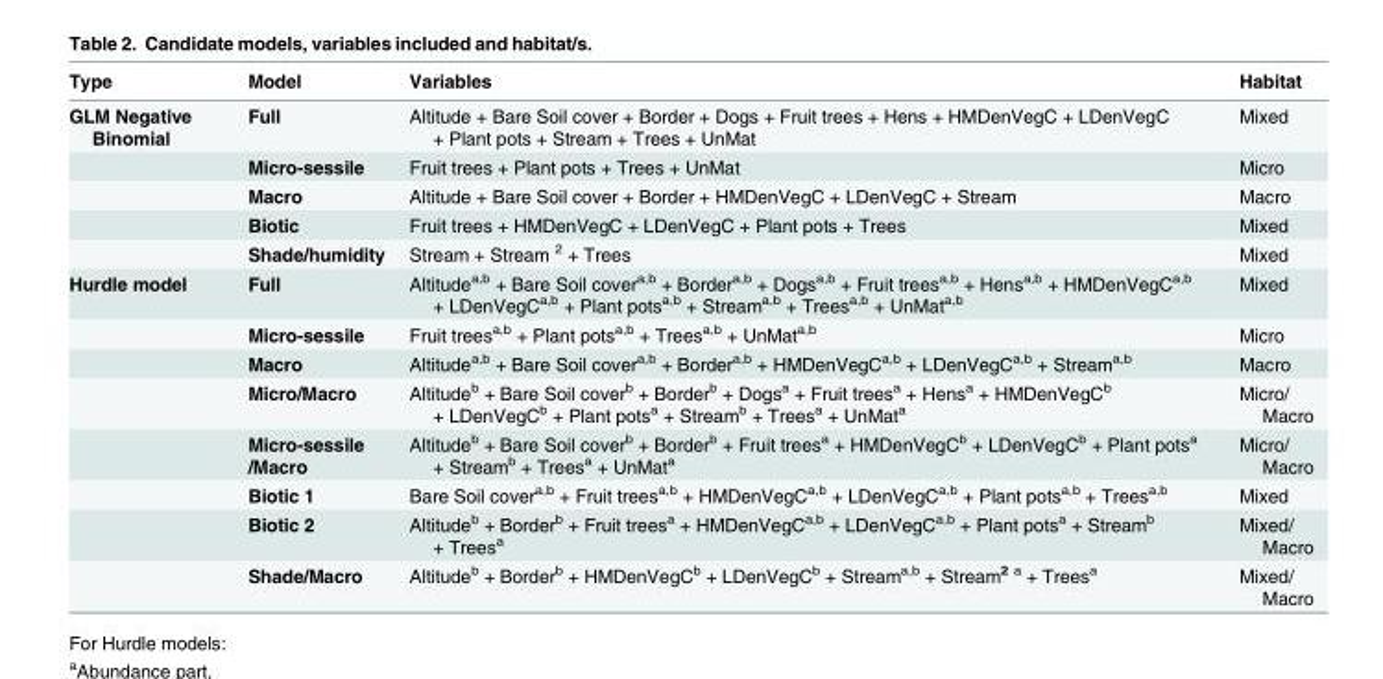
<table><thead><tr><td>Type</td><td>Model</td><td>Variables</td><td>Habitat</td></tr></thead><tbody><tr><td rowspan="5">GLM Negative Binomial</td><td>Full</td><td>Altitude + Bare Soil cover + Border + Dogs + Fruit trees + Hens + HMDenVegC + LDenVegC + Plant pots + Stream + Trees + UnMat</td><td>Mixed</td></tr><tr><td>Micro-sessile</td><td>Fruit trees + Plant pots + Trees + UnMat</td><td>Micro</td></tr><tr><td>Macro</td><td>Altitude + Bare Soil cover + Border + HMDenVegC + LDenVegC + Stream</td><td>Macro</td></tr><tr><td>Biotic</td><td>Fruit trees + HMDenVegC + LDenVegC + Plant pots + Trees</td><td>Mixed</td></tr><tr><td>Shade/humidity</td><td>Stream + Stream <sup>2</sup> + Trees</td><td>Mixed</td></tr><tr><td rowspan="8">Hurdle model</td><td>Full</td><td>Altitudea,b + Bare Soil covera,b + Bordera,b + Dogsa,b + Fruit treesa,b + Hensa,b + HMDenVegCa,b + LDenVegCa,b + Plant potsa,b + Streama,b + Treesa,b + UnMata,b</td><td>Mixed</td></tr><tr><td>Micro-sessile</td><td>Fruit trees<sup>a,b</sup> + Plant pots<sup>a,b</sup> + Trees<sup>a,b</sup> + UnMat<sup>a,b</sup></td><td>Micro</td></tr><tr><td>Macro</td><td>Altitude<sup>a,b</sup> + Bare Soil cover<sup>a,b</sup> + Border<sup>a,b</sup> + HMDenVegC<sup>a,b</sup> + LDenVegC<sup>a,b</sup> + Stream<sup>a,b</sup></td><td>Macro</td></tr><tr><td>Micro/Macro</td><td>Altitude<sup>b</sup> + Bare Soil cover<sup>b</sup> + Border<sup>b</sup> + Dogs<sup>a</sup> + Fruit trees<sup>a</sup> + Hens<sup>a</sup> + HMDenVegC<sup>b</sup> + LDenVegC<sup>b</sup> + Plant pots<sup>a</sup> + Stream<sup>b</sup> + Trees<sup>a</sup> + UnMat<sup>a</sup></td><td>Micro/ Macro</td></tr><tr><td>Micro-sessile /Macro</td><td>Altitude<sup>b</sup> + Bare Soil cover<sup>b</sup> + Border<sup>b</sup> + Fruit trees<sup>a</sup> + HMDenVegC<sup>b</sup> + LDenVegC<sup>b</sup> + Plant pots<sup>a</sup> + Stream<sup>b</sup> + Trees<sup>a</sup> + UnMat<sup>a</sup></td><td>Micro/ Macro</td></tr><tr><td>Biotic 1</td><td>Bare Soil cover<sup>a,b</sup> + Fruit trees<sup>a,b</sup> + HMDenVegC<sup>a,b</sup> + LDenVegC<sup>a,b</sup> + Plant pots<sup>a,b</sup> + Trees<sup>a,b</sup></td><td>Mixed</td></tr><tr><td>Biotic 2</td><td>Altitude<sup>b</sup> + Border<sup>b</sup> + Fruit trees<sup>a</sup> + HMDenVegC<sup>a,b</sup> + LDenVegC<sup>a,b</sup> + Plant pots<sup>a</sup> + Stream<sup>b</sup> + Trees<sup>a</sup></td><td>Mixed/ Macro</td></tr><tr><td>Shade/Macro</td><td>Altitude<sup>b</sup> + Border<sup>b</sup> + HMDenVegC<sup>b</sup> + LDenVegC<sup>b</sup> + Stream<sup>a,b</sup> + Stream<sup>2 a</sup> + Trees<sup>a</sup></td><td>Mixed/ Macro</td></tr></tbody></table>